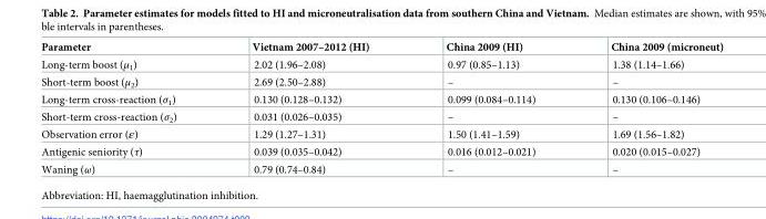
<table><thead><tr><td>Parameter</td><td>Vietnam 2007–2012 (HI)</td><td>China 2009 (HI)</td><td>China 2009 (microneut)</td></tr></thead><tbody><tr><td>Long-term boost (μ<sub>1</sub>)</td><td>2.02 (1.96–2.08)</td><td>0.97 (0.85–1.13)</td><td>1.38 (1.14–1.66)</td></tr><tr><td>Short-term boost (μ<sub>2</sub>)</td><td>2.69 (2.50–2.88)</td><td>–</td><td>–</td></tr><tr><td>Long-term cross-reaction (σ<sub>1</sub>)</td><td>0.130 (0.128–0.132)</td><td>0.099 (0.084–0.114)</td><td>0.130 (0.106–0.146)</td></tr><tr><td>Short-term cross-reaction (σ<sub>2</sub>)</td><td>0.031 (0.026–0.035)</td><td>–</td><td>–</td></tr><tr><td>Observation error (ε)</td><td>1.29 (1.27–1.31)</td><td>1.50 (1.41–1.59)</td><td>1.69 (1.56–1.82)</td></tr><tr><td>Antigenic seniority (τ)</td><td>0.039 (0.035–0.042)</td><td>0.016 (0.012–0.021)</td><td>0.020 (0.015–0.027)</td></tr><tr><td>Waning (ω)</td><td>0.79 (0.74–0.84)</td><td>–</td><td>–</td></tr></tbody></table>